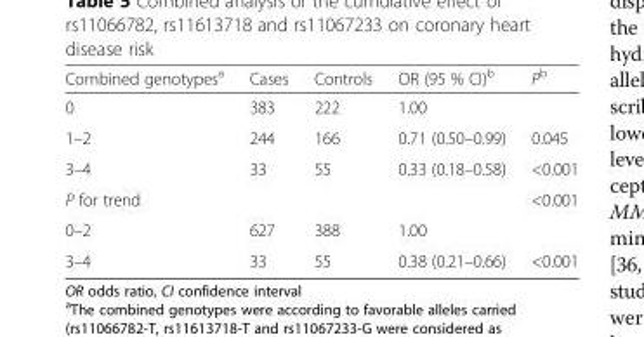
<table><thead><tr><td>Combined genotypes<sup>a</sup></td><td>Cases</td><td>Controls</td><td>OR (95 % CI)<sup>b</sup></td><td>P<sup>b</sup></td></tr></thead><tbody><tr><td>0</td><td>383</td><td>222</td><td>1.00</td><td></td></tr><tr><td>1–2</td><td>244</td><td>166</td><td>0.71 (0.50–0.99)</td><td>0.045</td></tr><tr><td>3–4</td><td>33</td><td>55</td><td>0.33 (0.18–0.58)</td><td>&lt;0.001</td></tr><tr><td>P for trend</td><td></td><td></td><td></td><td>&lt;0.001</td></tr><tr><td>0–2</td><td>627</td><td>388</td><td>1.00</td><td></td></tr><tr><td>3–4</td><td>33</td><td>55</td><td>0.38 (0.21–0.66)</td><td>&lt;0.001</td></tr></tbody></table>